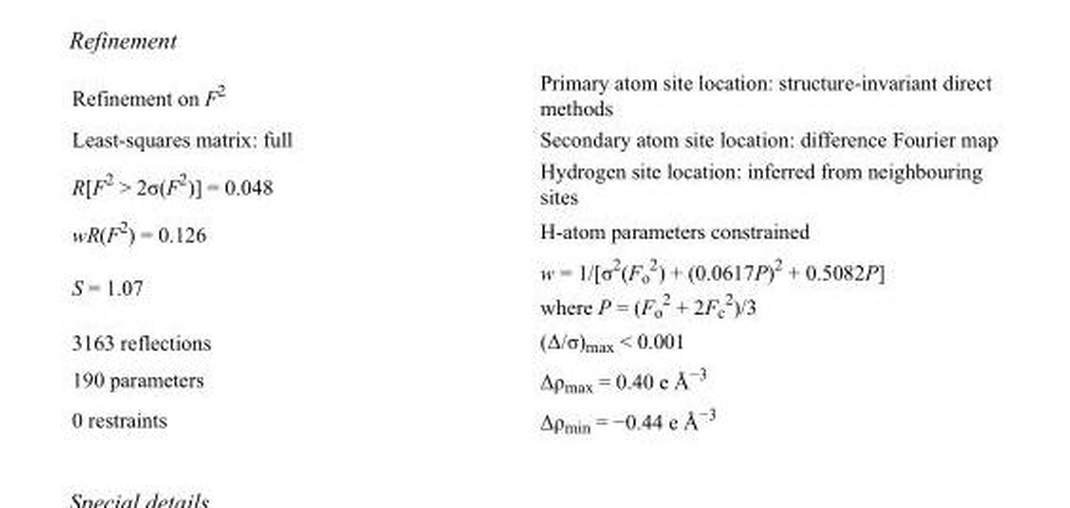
<table><tbody><tr><td>Refinement on F<sup>2</sup></td><td>Primary atom site location: structure-invariant direct methods</td></tr><tr><td>Least-squares matrix: full</td><td>Secondary atom site location: difference Fourier map</td></tr><tr><td>R[F<sup>2</sup> &gt; 2σ(F<sup>2</sup>)] = 0.048</td><td>Hydrogen site location: inferred from neighbouring sites</td></tr><tr><td>wR(F<sup>2</sup>) = 0.126</td><td>H-atom parameters constrained</td></tr><tr><td>S = 1.07</td><td>w = 1/[σ<sup>2</sup>(F<sub>o</sub> <sup>2</sup>) + (0.0617P)<sup>2</sup> + 0.5082P] where P = (F<sub>o</sub> <sup>2</sup> + 2F<sub>c</sub> <sup>2</sup>)/3</td></tr><tr><td>3163 reflections</td><td>(Δ/σ)<sub>max</sub> &lt; 0.001</td></tr><tr><td>190 parameters</td><td>Δρ<sub>max</sub> = 0.40 e Å<sup>−3</sup></td></tr><tr><td>0 restraints</td><td>Δρ<sub>min</sub> = −0.44 e Å<sup>−3</sup></td></tr></tbody></table>